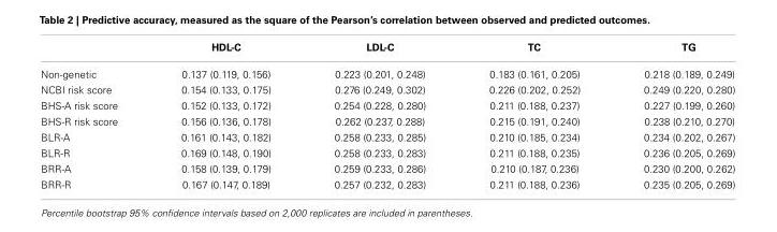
<table><thead><tr><td></td><td>HDL-C</td><td>LDL-C</td><td>TC</td><td>TG</td></tr></thead><tbody><tr><td>Non-genetic</td><td>0.137 (0.119, 0.156)</td><td>0.223 (0.201, 0.248)</td><td>0.183 (0.161, 0.205)</td><td>0.218 (0.189, 0.249)</td></tr><tr><td>NCBI risk score</td><td>0.154 (0.133, 0.175)</td><td>0.276 (0.249, 0.302)</td><td>0.226 (0.202, 0.252)</td><td>0.249 (0.220, 0.280)</td></tr><tr><td>BHS-A risk score</td><td>0.152 (0.133, 0.172)</td><td>0.254 (0.228, 0.280)</td><td>0.211 (0.188, 0.237)</td><td>0.227 (0.199, 0.260)</td></tr><tr><td>BHS-R risk score</td><td>0.156 (0.136, 0.178)</td><td>0.262 (0.237, 0.288)</td><td>0.215 (0.191, 0.240)</td><td>0.238 (0.210, 0.270)</td></tr><tr><td>BLR-A</td><td>0.161 (0.143, 0.182)</td><td>0.258 (0.233, 0.285)</td><td>0.210 (0.185, 0.234)</td><td>0.234 (0.202, 0.267)</td></tr><tr><td>BLR-R</td><td>0.169 (0.148, 0.190)</td><td>0.258 (0.233, 0.283)</td><td>0.211 (0.188, 0.235)</td><td>0.236 (0.205, 0.269)</td></tr><tr><td>BRR-A</td><td>0.158 (0.139, 0.179)</td><td>0.259 (0.233, 0.286)</td><td>0.210 (0.187, 0.236)</td><td>0.230 (0.200, 0.262)</td></tr><tr><td>BRR-R</td><td>0.167 (0.147, 0.189)</td><td>0.257 (0.232, 0.283)</td><td>0.211 (0.188, 0.236)</td><td>0.235 (0.205, 0.269)</td></tr></tbody></table>